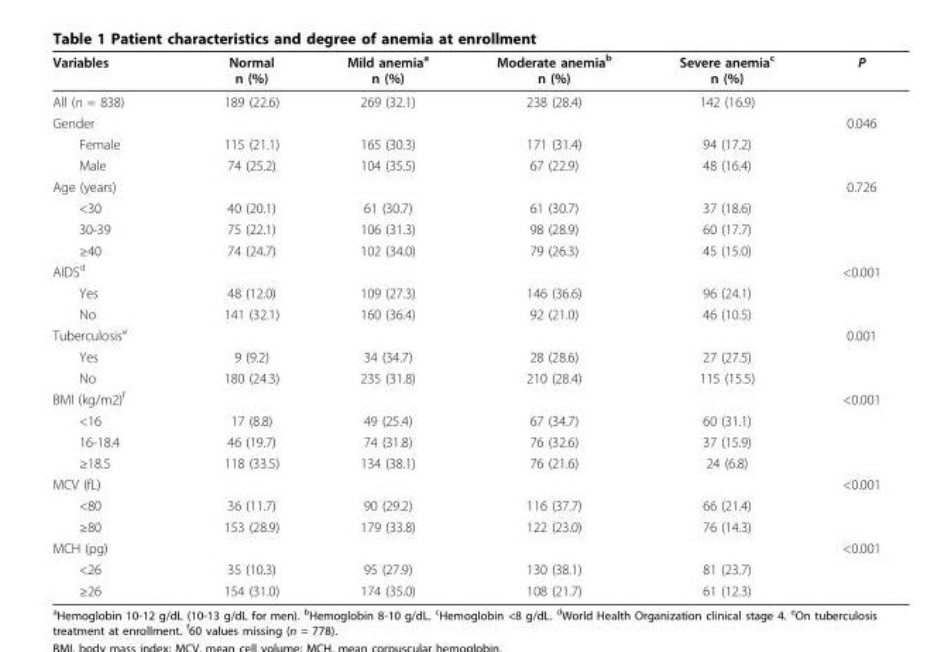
<table><thead><tr><td>Variables</td><td>Normal n (%)</td><td>Mild anemia<sup>a</sup> n (%)</td><td>Moderate anemia<sup>b</sup> n (%)</td><td>Severe anemia<sup>c</sup> n (%)</td><td>P</td></tr></thead><tbody><tr><td>All (n = 838)</td><td>189 (22.6)</td><td>269 (32.1)</td><td>238 (28.4)</td><td>142 (16.9)</td><td></td></tr><tr><td>Gender</td><td></td><td></td><td></td><td></td><td>0.046</td></tr><tr><td>Female</td><td>115 (21.1)</td><td>165 (30.3)</td><td>171 (31.4)</td><td>94 (17.2)</td><td></td></tr><tr><td>Male</td><td>74 (25.2)</td><td>104 (35.5)</td><td>67 (22.9)</td><td>48 (16.4)</td><td></td></tr><tr><td>Age (years)</td><td></td><td></td><td></td><td></td><td>0.726</td></tr><tr><td>&lt;30</td><td>40 (20.1)</td><td>61 (30.7)</td><td>61 (30.7)</td><td>37 (18.6)</td><td></td></tr><tr><td>30-39</td><td>75 (22.1)</td><td>106 (31.3)</td><td>98 (28.9)</td><td>60 (17.7)</td><td></td></tr><tr><td>≥40</td><td>74 (24.7)</td><td>102 (34.0)</td><td>79 (26.3)</td><td>45 (15.0)</td><td></td></tr><tr><td>AIDS<sup>d</sup></td><td></td><td></td><td></td><td></td><td>&lt;0.001</td></tr><tr><td>Yes</td><td>48 (12.0)</td><td>109 (27.3)</td><td>146 (36.6)</td><td>96 (24.1)</td><td></td></tr><tr><td>No</td><td>141 (32.1)</td><td>160 (36.4)</td><td>92 (21.0)</td><td>46 (10.5)</td><td></td></tr><tr><td>Tuberculosis<sup>e</sup></td><td></td><td></td><td></td><td></td><td>0.001</td></tr><tr><td>Yes</td><td>9 (9.2)</td><td>34 (34.7)</td><td>28 (28.6)</td><td>27 (27.5)</td><td></td></tr><tr><td>No</td><td>180 (24.3)</td><td>235 (31.8)</td><td>210 (28.4)</td><td>115 (15.5)</td><td></td></tr><tr><td>BMI (kg/m2)<sup>f</sup></td><td></td><td></td><td></td><td></td><td>&lt;0.001</td></tr><tr><td>&lt;16</td><td>17 (8.8)</td><td>49 (25.4)</td><td>67 (34.7)</td><td>60 (31.1)</td><td></td></tr><tr><td>16-18.4</td><td>46 (19.7)</td><td>74 (31.8)</td><td>76 (32.6)</td><td>37 (15.9)</td><td></td></tr><tr><td>≥18.5</td><td>118 (33.5)</td><td>134 (38.1)</td><td>76 (21.6)</td><td>24 (6.8)</td><td></td></tr><tr><td>MCV (fL)</td><td></td><td></td><td></td><td></td><td>&lt;0.001</td></tr><tr><td>&lt;80</td><td>36 (11.7)</td><td>90 (29.2)</td><td>116 (37.7)</td><td>66 (21.4)</td><td></td></tr><tr><td>≥80</td><td>153 (28.9)</td><td>179 (33.8)</td><td>122 (23.0)</td><td>76 (14.3)</td><td></td></tr><tr><td>MCH (pg)</td><td></td><td></td><td></td><td></td><td>&lt;0.001</td></tr><tr><td>&lt;26</td><td>35 (10.3)</td><td>95 (27.9)</td><td>130 (38.1)</td><td>81 (23.7)</td><td></td></tr><tr><td>≥26</td><td>154 (31.0)</td><td>174 (35.0)</td><td>108 (21.7)</td><td>61 (12.3)</td><td></td></tr></tbody></table>